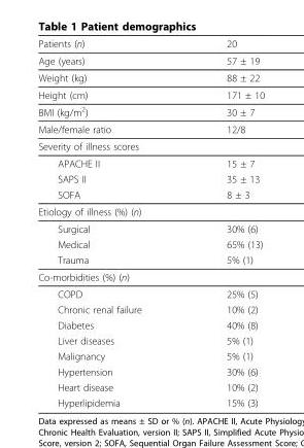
<table><thead><tr><td>Patients (n)</td><td>20</td></tr></thead><tbody><tr><td>Age (years)</td><td>57 ± 19</td></tr><tr><td>Weight (kg)</td><td>88 ± 22</td></tr><tr><td>Height (cm)</td><td>171 ± 10</td></tr><tr><td>BMI (kg/m<sup>2</sup>)</td><td>30 ± 7</td></tr><tr><td>Male/female ratio</td><td>12/8</td></tr><tr><td colspan="2">Severity of illness scores</td></tr><tr><td>APACHE II</td><td>15 ± 7</td></tr><tr><td>SAPS II</td><td>35 ± 13</td></tr><tr><td>SOFA</td><td>8 ± 3</td></tr><tr><td colspan="2">Etiology of illness (%) (n)</td></tr><tr><td>Surgical</td><td>30% (6)</td></tr><tr><td>Medical</td><td>65% (13)</td></tr><tr><td>Trauma</td><td>5% (1)</td></tr><tr><td colspan="2">Co-morbidities (%) (n)</td></tr><tr><td>COPD</td><td>25% (5)</td></tr><tr><td>Chronic renal failure</td><td>10% (2)</td></tr><tr><td>Diabetes</td><td>40% (8)</td></tr><tr><td>Liver diseases</td><td>5% (1)</td></tr><tr><td>Malignancy</td><td>5% (1)</td></tr><tr><td>Hypertension</td><td>30% (6)</td></tr><tr><td>Heart disease</td><td>10% (2)</td></tr><tr><td>Hyperlipidemia</td><td>15% (3)</td></tr></tbody></table>